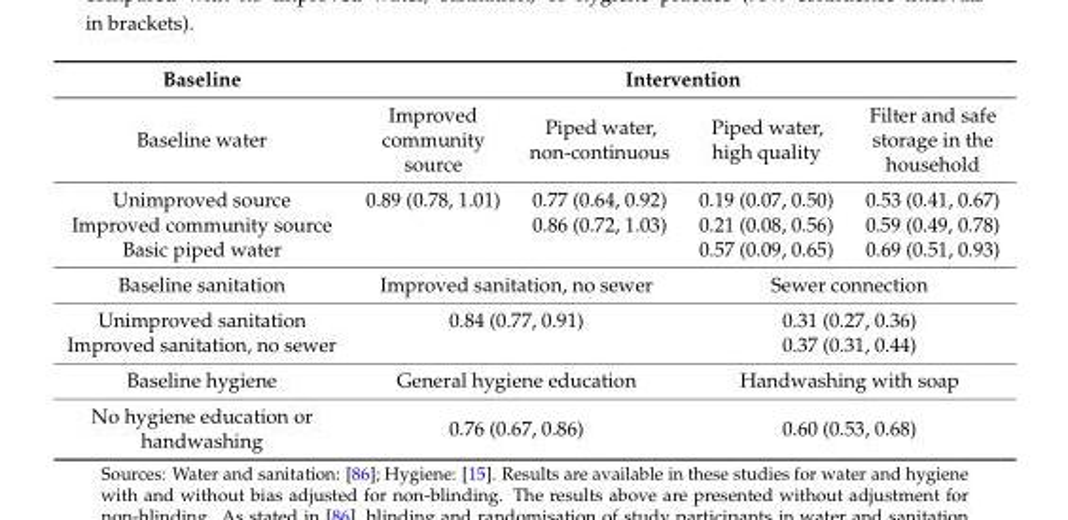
<table><thead><tr><td rowspan="2">Baseline Baseline water</td><td colspan="4">Intervention</td></tr><tr><td>Improved community source</td><td>Piped water, non-continuous</td><td>Piped water, high quality</td><td>Filter and safe storage in the household</td></tr></thead><tbody><tr><td>Unimproved source</td><td>0.89 (0.78, 1.01)</td><td>0.77 (0.64, 0.92)</td><td>0.19 (0.07, 0.50)</td><td>0.53 (0.41, 0.67)</td></tr><tr><td>Improved community source</td><td></td><td>0.86 (0.72, 1.03)</td><td>0.21 (0.08, 0.56)</td><td>0.59 (0.49, 0.78)</td></tr><tr><td>Basic piped water</td><td></td><td></td><td>0.57 (0.09, 0.65)</td><td>0.69 (0.51, 0.93)</td></tr><tr><td>Baseline sanitation</td><td colspan="2">Improved sanitation, no sewer</td><td colspan="2">Sewer connection</td></tr><tr><td>Unimproved sanitation</td><td colspan="2">0.84 (0.77, 0.91)</td><td colspan="2">0.31 (0.27, 0.36)</td></tr><tr><td>Improved sanitation, no sewer</td><td colspan="2"></td><td colspan="2">0.37 (0.31, 0.44)</td></tr><tr><td>Baseline hygiene</td><td colspan="2">General hygiene education</td><td colspan="2">Handwashing with soap</td></tr><tr><td>No hygiene education or handwashing</td><td colspan="2">0.76 (0.67, 0.86)</td><td colspan="2">0.60 (0.53, 0.68)</td></tr></tbody></table>